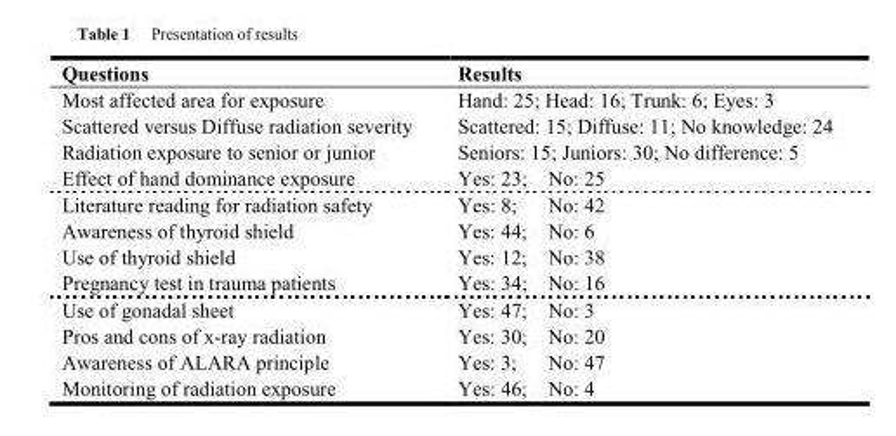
<table><thead><tr><td>Questions</td><td>Results</td></tr></thead><tbody><tr><td>Most affected area for exposure</td><td>Hand: 25; Head: 16; Trunk: 6; Eyes: 3</td></tr><tr><td>Scattered versus Diffuse radiation severity</td><td>Scattered: 15; Diffuse: 11; No knowledge: 24</td></tr><tr><td>Radiation exposure to senior or junior</td><td>Seniors: 15; Juniors: 30; No difference: 5</td></tr><tr><td>Effect of hand dominance exposure</td><td>Yes: 23; No: 25</td></tr><tr><td>Literature reading for radiation safety</td><td>Yes: 8; No: 42</td></tr><tr><td>Awareness of thyroid shield</td><td>Yes: 44; No: 6</td></tr><tr><td>Use of thyroid shield</td><td>Yes: 12; No: 38</td></tr><tr><td>Pregnancy test in trauma patients</td><td>Yes: 34; No: 16</td></tr><tr><td>Use of gonadal sheet</td><td>Yes: 47; No: 3</td></tr><tr><td>Pros and cons of x-ray radiation</td><td>Yes: 30; No: 20</td></tr><tr><td>Awareness of ALARA principle</td><td>Yes: 3; No: 47</td></tr></tbody></table>